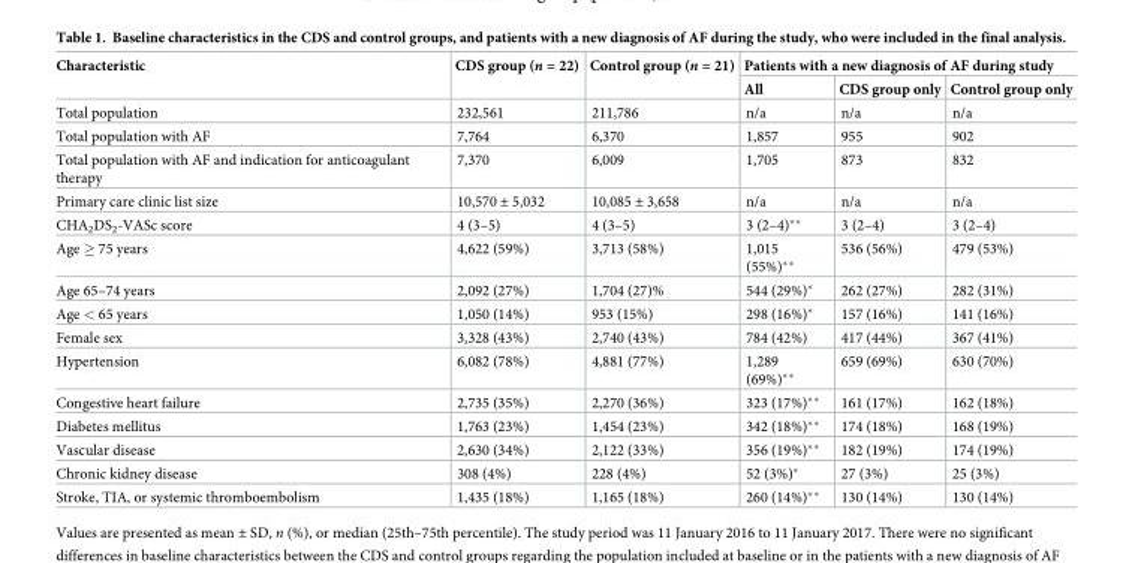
<table><thead><tr><td rowspan="2">Characteristic</td><td rowspan="2">CDS group (n = 22)</td><td rowspan="2">Control group (n = 21)</td><td colspan="3">Patients with a new diagnosis of AF during study</td></tr><tr><td>All</td><td>CDS group only</td><td>Control group only</td></tr></thead><tbody><tr><td>Total population</td><td>232,561</td><td>211,786</td><td>n/a</td><td>n/a</td><td>n/a</td></tr><tr><td>Total population with AF</td><td>7,764</td><td>6,370</td><td>1,857</td><td>955</td><td>902</td></tr><tr><td>Total population with AF and indication for anticoagulant therapy</td><td>7,370</td><td>6,009</td><td>1,705</td><td>873</td><td>832</td></tr><tr><td>Primary care clinic list size</td><td>10,570 ± 5,032</td><td>10,085 ± 3,658</td><td>n/a</td><td>n/a</td><td>n/a</td></tr><tr><td>CHA<sub>2</sub>DS<sub>2</sub>-VASc score</td><td>4 (3–5)</td><td>4 (3–5)</td><td>3 (2–4)**</td><td>3 (2–4)</td><td>3 (2–4)</td></tr><tr><td>Age ≥ 75 years</td><td>4,622 (59%)</td><td>3,713 (58%)</td><td>1,015 (55%)**</td><td>536 (56%)</td><td>479 (53%)</td></tr><tr><td>Age 65–74 years</td><td>2,092 (27%)</td><td>1,704 (27)%</td><td>544 (29%)*</td><td>262 (27%)</td><td>282 (31%)</td></tr><tr><td>Age &lt; 65 years</td><td>1,050 (14%)</td><td>953 (15%)</td><td>298 (16%)*</td><td>157 (16%)</td><td>141 (16%)</td></tr><tr><td>Female sex</td><td>3,328 (43%)</td><td>2,740 (43%)</td><td>784 (42%)</td><td>417 (44%)</td><td>367 (41%)</td></tr><tr><td>Hypertension</td><td>6,082 (78%)</td><td>4,881 (77%)</td><td>1,289 (69%)**</td><td>659 (69%)</td><td>630 (70%)</td></tr><tr><td>Congestive heart failure</td><td>2,735 (35%)</td><td>2,270 (36%)</td><td>323 (17%)**</td><td>161 (17%)</td><td>162 (18%)</td></tr><tr><td>Diabetes mellitus</td><td>1,763 (23%)</td><td>1,454 (23%)</td><td>342 (18%)**</td><td>174 (18%)</td><td>168 (19%)</td></tr><tr><td>Vascular disease</td><td>2,630 (34%)</td><td>2,122 (33%)</td><td>356 (19%)**</td><td>182 (19%)</td><td>174 (19%)</td></tr><tr><td>Chronic kidney disease</td><td>308 (4%)</td><td>228 (4%)</td><td>52 (3%)*</td><td>27 (3%)</td><td>25 (3%)</td></tr><tr><td>Stroke, TIA, or systemic thromboembolism</td><td>1,435 (18%)</td><td>1,165 (18%)</td><td>260 (14%)**</td><td>130 (14%)</td><td>130 (14%)</td></tr></tbody></table>